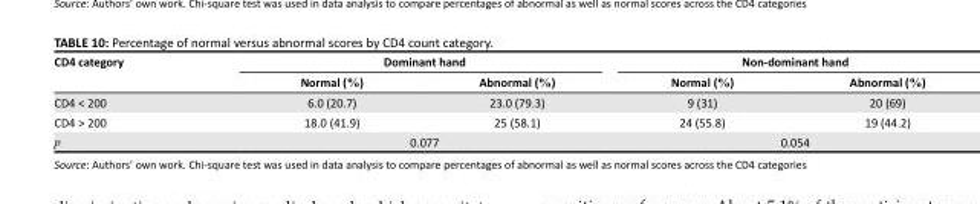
<table><thead><tr><td rowspan="2">CD4 category</td><td colspan="3">Dominant hand</td><td colspan="3">Non-dominant hand</td></tr><tr><td>Normal (%)</td><td></td><td>Abnormal (%)</td><td>Normal (%)</td><td></td><td>Abnormal (%)</td></tr></thead><tbody><tr><td>CD4 &lt; 200</td><td>6.0 (20.7)</td><td></td><td>23.0 (79.3)</td><td>9 (31)</td><td></td><td>20 (69)</td></tr><tr><td>CD4 &gt; 200</td><td>18.0 (41.9)</td><td></td><td>25 (58.1)</td><td>24 (55.8)</td><td></td><td>19 (44.2)</td></tr><tr><td>p</td><td></td><td>0.077</td><td></td><td></td><td>0.054</td><td></td></tr></tbody></table>